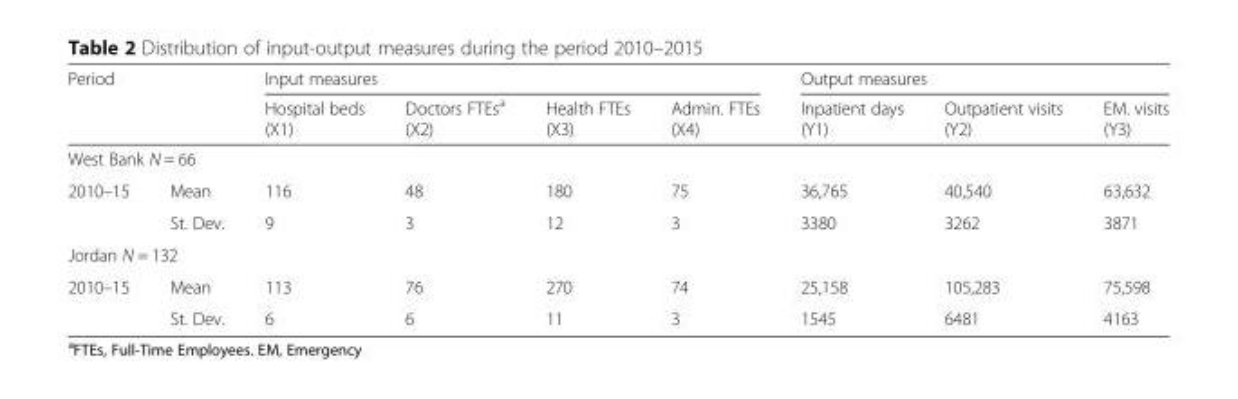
<table><thead><tr><td rowspan="2">Period</td><td rowspan="2"></td><td colspan="4">Input measures</td><td colspan="3">Output measures</td></tr><tr><td>Hospital beds (X1)</td><td>Doctors FTEs<sup>a</sup> (X2)</td><td>Health FTEs (X3)</td><td>Admin. FTEs (X4)</td><td>Inpatient days (Y1)</td><td>Outpatient visits (Y2)</td><td>EM. visits (Y3)</td></tr></thead><tbody><tr><td colspan="9">West Bank N = 66</td></tr><tr><td rowspan="2">2010–15</td><td>Mean</td><td>116</td><td>48</td><td>180</td><td>75</td><td>36,765</td><td>40,540</td><td>63,632</td></tr><tr><td>St. Dev.</td><td>9</td><td>3</td><td>12</td><td>3</td><td>3380</td><td>3262</td><td>3871</td></tr><tr><td colspan="9">Jordan N = 132</td></tr><tr><td rowspan="2">2010–15</td><td>Mean</td><td>113</td><td>76</td><td>270</td><td>74</td><td>25,158</td><td>105,283</td><td>75,598</td></tr><tr><td>St. Dev.</td><td>6</td><td>6</td><td>11</td><td>3</td><td>1545</td><td>6481</td><td>4163</td></tr></tbody></table>